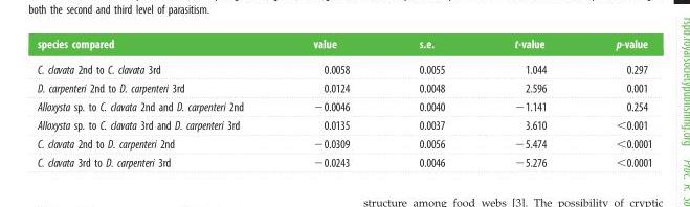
<table><thead><tr><td>species compared</td><td>value</td><td>s.e.</td><td>t-value</td><td>p-value</td></tr></thead><tbody><tr><td>C. clavata 2nd to C. clavata 3rd</td><td>0.0058</td><td>0.0055</td><td>1.044</td><td>0.297</td></tr><tr><td>D. carpenteri 2nd to D. carpenteri 3rd</td><td>0.0124</td><td>0.0048</td><td>2.596</td><td>0.001</td></tr><tr><td>Alloxysta sp. to C. clavata 2nd and D. carpenteri 2nd</td><td>−0.0046</td><td>0.0040</td><td>−1.141</td><td>0.254</td></tr><tr><td>Alloxysta sp. to C. clavata 3rd and D. carpenteri 3rd</td><td>0.0135</td><td>0.0037</td><td>3.610</td><td>&lt;0.001</td></tr><tr><td>C. clavata 2nd to D. carpenteri 2nd</td><td>−0.0309</td><td>0.0056</td><td>−5.474</td><td>&lt;0.0001</td></tr><tr><td>C. clavata 3rd to D. carpenteri 3rd</td><td>−0.0243</td><td>0.0046</td><td>−5.276</td><td>&lt;0.0001</td></tr></tbody></table>